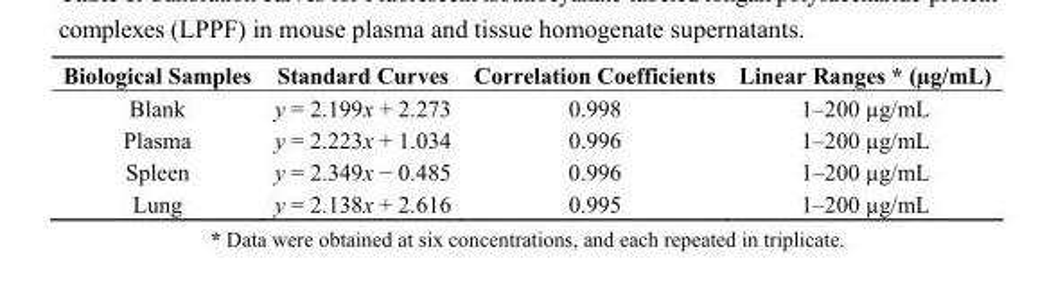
<table><thead><tr><td>Biological Samples</td><td>Standard Curves</td><td>Correlation Coefficients</td><td>Linear Ranges * (µg/mL)</td></tr></thead><tbody><tr><td>Blank</td><td>y = 2.199x + 2.273</td><td>0.998</td><td>1–200 µg/mL</td></tr><tr><td>Plasma</td><td>y = 2.223x + 1.034</td><td>0.996</td><td>1–200 µg/mL</td></tr><tr><td>Spleen</td><td>y = 2.349x − 0.485</td><td>0.996</td><td>1–200 µg/mL</td></tr><tr><td>Lung</td><td>y = 2.138x + 2.616</td><td>0.995</td><td>1–200 µg/mL</td></tr></tbody></table>